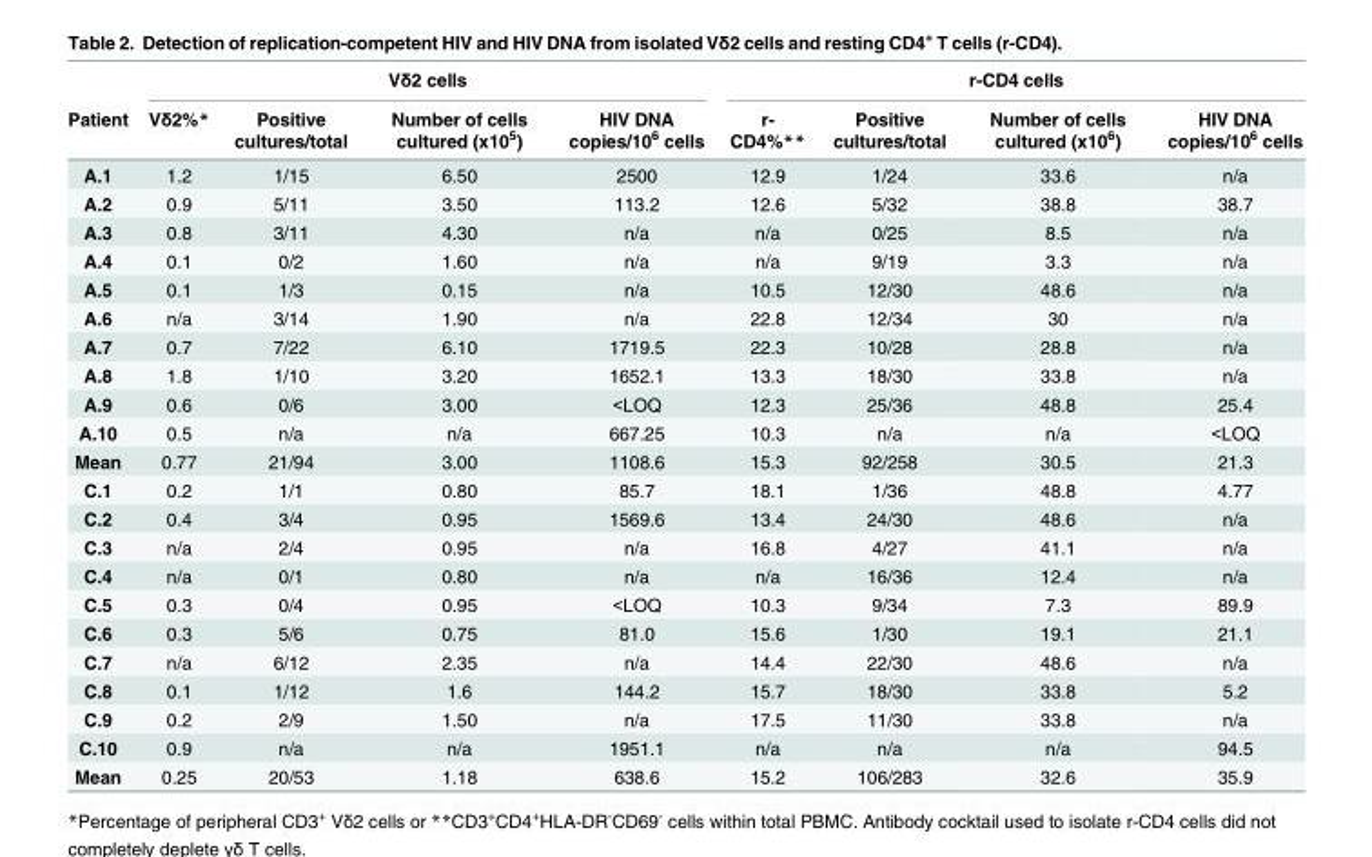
<table><thead><tr><td rowspan="2">Patient</td><td colspan="4">Vδ2 cells</td><td colspan="4">r-CD4 cells</td></tr><tr><td>Vδ2%*</td><td>Positive cultures/total</td><td>Number of cells cultured (x10<sup>5</sup>)</td><td>HIV DNA copies/10<sup>6</sup> cells</td><td>r- CD4%**</td><td>Positive cultures/total</td><td>Number of cells cultured (x10<sup>6</sup>)</td><td>HIV DNA copies/10<sup>6</sup> cells</td></tr></thead><tbody><tr><td>A.1</td><td>1.2</td><td>1/15</td><td>6.50</td><td>2500</td><td>12.9</td><td>1/24</td><td>33.6</td><td>n/a</td></tr><tr><td>A.2</td><td>0.9</td><td>5/11</td><td>3.50</td><td>113.2</td><td>12.6</td><td>5/32</td><td>38.8</td><td>38.7</td></tr><tr><td>A.3</td><td>0.8</td><td>3/11</td><td>4.30</td><td>n/a</td><td>n/a</td><td>0/25</td><td>8.5</td><td>n/a</td></tr><tr><td>A.4</td><td>0.1</td><td>0/2</td><td>1.60</td><td>n/a</td><td>n/a</td><td>9/19</td><td>3.3</td><td>n/a</td></tr><tr><td>A.5</td><td>0.1</td><td>1/3</td><td>0.15</td><td>n/a</td><td>10.5</td><td>12/30</td><td>48.6</td><td>n/a</td></tr><tr><td>A.6</td><td>n/a</td><td>3/14</td><td>1.90</td><td>n/a</td><td>22.8</td><td>12/34</td><td>30</td><td>n/a</td></tr><tr><td>A.7</td><td>0.7</td><td>7/22</td><td>6.10</td><td>1719.5</td><td>22.3</td><td>10/28</td><td>28.8</td><td>n/a</td></tr><tr><td>A.8</td><td>1.8</td><td>1/10</td><td>3.20</td><td>1652.1</td><td>13.3</td><td>18/30</td><td>33.8</td><td>n/a</td></tr><tr><td>A.9</td><td>0.6</td><td>0/6</td><td>3.00</td><td>&lt;LOQ</td><td>12.3</td><td>25/36</td><td>48.8</td><td>25.4</td></tr><tr><td>A.10</td><td>0.5</td><td>n/a</td><td>n/a</td><td>667.25</td><td>10.3</td><td>n/a</td><td>n/a</td><td>&lt;LOQ</td></tr><tr><td>Mean</td><td>0.77</td><td>21/94</td><td>3.00</td><td>1108.6</td><td>15.3</td><td>92/258</td><td>30.5</td><td>21.3</td></tr><tr><td>C.1</td><td>0.2</td><td>1/1</td><td>0.80</td><td>85.7</td><td>18.1</td><td>1/36</td><td>48.8</td><td>4.77</td></tr><tr><td>C.2</td><td>0.4</td><td>3/4</td><td>0.95</td><td>1569.6</td><td>13.4</td><td>24/30</td><td>48.6</td><td>n/a</td></tr><tr><td>C.3</td><td>n/a</td><td>2/4</td><td>0.95</td><td>n/a</td><td>16.8</td><td>4/27</td><td>41.1</td><td>n/a</td></tr><tr><td>C.4</td><td>n/a</td><td>0/1</td><td>0.80</td><td>n/a</td><td>n/a</td><td>16/36</td><td>12.4</td><td>n/a</td></tr><tr><td>C.5</td><td>0.3</td><td>0/4</td><td>0.95</td><td>&lt;LOQ</td><td>10.3</td><td>9/34</td><td>7.3</td><td>89.9</td></tr><tr><td>C.6</td><td>0.3</td><td>5/6</td><td>0.75</td><td>81.0</td><td>15.6</td><td>1/30</td><td>19.1</td><td>21.1</td></tr><tr><td>C.7</td><td>n/a</td><td>6/12</td><td>2.35</td><td>n/a</td><td>14.4</td><td>22/30</td><td>48.6</td><td>n/a</td></tr><tr><td>C.8</td><td>0.1</td><td>1/12</td><td>1.6</td><td>144.2</td><td>15.7</td><td>18/30</td><td>33.8</td><td>5.2</td></tr><tr><td>C.9</td><td>0.2</td><td>2/9</td><td>1.50</td><td>n/a</td><td>17.5</td><td>11/30</td><td>33.8</td><td>n/a</td></tr><tr><td>C.10</td><td>0.9</td><td>n/a</td><td>n/a</td><td>1951.1</td><td>n/a</td><td>n/a</td><td>n/a</td><td>94.5</td></tr><tr><td>Mean</td><td>0.25</td><td>20/53</td><td>1.18</td><td>638.6</td><td>15.2</td><td>106/283</td><td>32.6</td><td>35.9</td></tr></tbody></table>